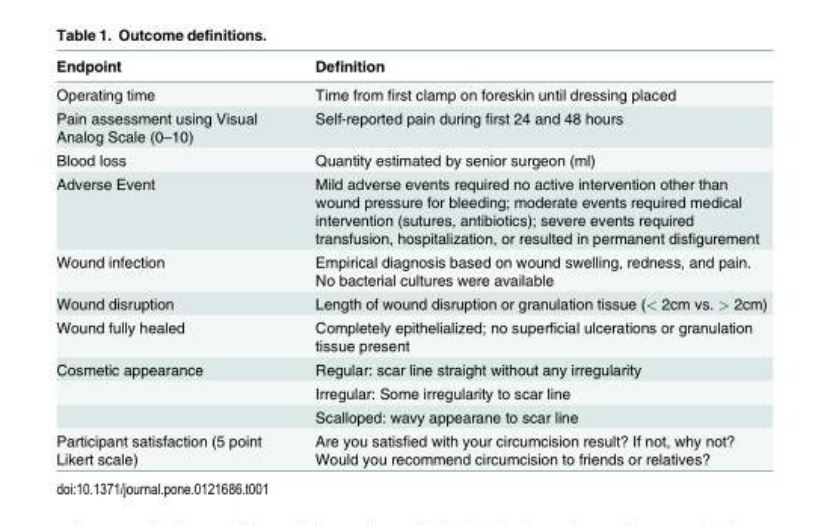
<table><thead><tr><td>Endpoint</td><td>Definition</td></tr></thead><tbody><tr><td>Operating time</td><td>Time from first clamp on foreskin until dressing placed</td></tr><tr><td>Pain assessment using Visual Analog Scale (0–10)</td><td>Self-reported pain during first 24 and 48 hours</td></tr><tr><td>Blood loss</td><td>Quantity estimated by senior surgeon (ml)</td></tr><tr><td>Adverse Event</td><td>Mild adverse events required no active intervention other than wound pressure for bleeding; moderate events required medical intervention (sutures, antibiotics); severe events required transfusion, hospitalization, or resulted in permanent disfigurement</td></tr><tr><td>Wound infection</td><td>Empirical diagnosis based on wound swelling, redness, and pain. No bacterial cultures were available</td></tr><tr><td>Wound disruption</td><td>Length of wound disruption or granulation tissue (&lt; 2cm vs. &gt; 2cm)</td></tr><tr><td>Wound fully healed</td><td>Completely epithelialized; no superficial ulcerations or granulation tissue present</td></tr><tr><td rowspan="3">Cosmetic appearance</td><td>Regular: scar line straight without any irregularity</td></tr><tr><td>Irregular: Some irregularity to scar line</td></tr><tr><td>Scalloped: wavy appearane to scar line</td></tr><tr><td>Participant satisfaction (5 point Likert scale)</td><td>Are you satisfied with your circumcision result? If not, why not? Would you recommend circumcision to friends or relatives?</td></tr></tbody></table>